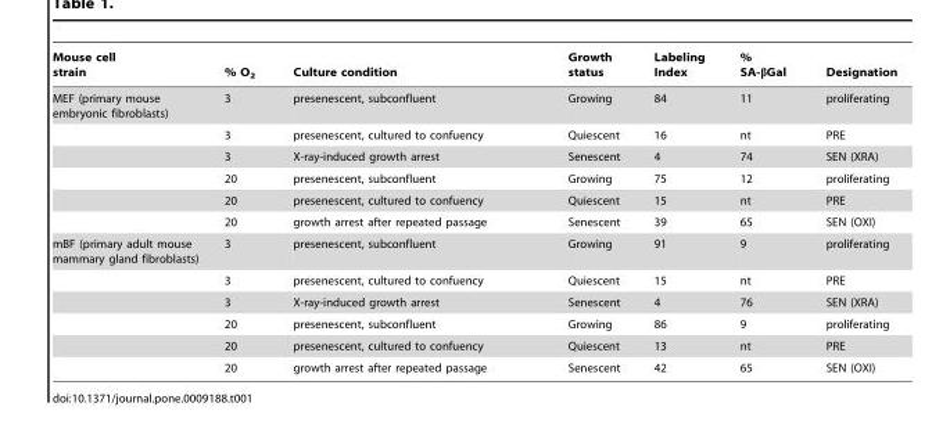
<table><thead><tr><td>Mouse cell strain</td><td>% O<sub>2</sub></td><td>Culture condition</td><td>Growth status</td><td>Labeling Index</td><td>% SA-βGal</td><td>Designation</td></tr></thead><tbody><tr><td rowspan="6">MEF (primary mouse embryonic fibroblasts)</td><td>3</td><td>presenescent, subconfluent</td><td>Growing</td><td>84</td><td>11</td><td>proliferating</td></tr><tr><td>3</td><td>presenescent, cultured to confuency</td><td>Quiescent</td><td>16</td><td>nt</td><td>PRE</td></tr><tr><td>3</td><td>X-ray-induced growth arrest</td><td>Senescent</td><td>4</td><td>74</td><td>SEN (XRA)</td></tr><tr><td>20</td><td>presenescent, subconfluent</td><td>Growing</td><td>75</td><td>12</td><td>proliferating</td></tr><tr><td>20</td><td>presenescent, cultured to confuency</td><td>Quiescent</td><td>15</td><td>nt</td><td>PRE</td></tr><tr><td>20</td><td>growth arrest after repeated passage</td><td>Senescent</td><td>39</td><td>65</td><td>SEN (OXI)</td></tr><tr><td rowspan="6">mBF (primary adult mouse mammary gland fibroblasts)</td><td>3</td><td>presenescent, subconfluent</td><td>Growing</td><td>91</td><td>9</td><td>proliferating</td></tr><tr><td>3</td><td>presenescent, cultured to confuency</td><td>Quiescent</td><td>15</td><td>nt</td><td>PRE</td></tr><tr><td>3</td><td>X-ray-induced growth arrest</td><td>Senescent</td><td>4</td><td>76</td><td>SEN (XRA)</td></tr><tr><td>20</td><td>presenescent, subconfluent</td><td>Growing</td><td>86</td><td>9</td><td>proliferating</td></tr><tr><td>20</td><td>presenescent, cultured to confuency</td><td>Quiescent</td><td>13</td><td>nt</td><td>PRE</td></tr><tr><td>20</td><td>growth arrest after repeated passage</td><td>Senescent</td><td>42</td><td>65</td><td>SEN (OXI)</td></tr></tbody></table>